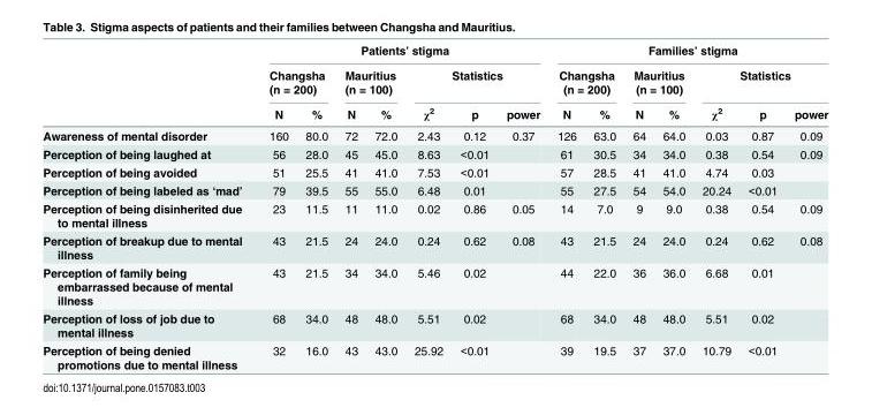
<table><thead><tr><td rowspan="3"></td><td colspan="7">Patients’ stigma</td><td colspan="7">Families’ stigma</td></tr><tr><td colspan="2">Changsha (n = 200)</td><td colspan="2">Mauritius (n = 100)</td><td colspan="3">Statistics</td><td colspan="2">Changsha (n = 200)</td><td colspan="2">Mauritius (n = 100)</td><td colspan="3">Statistics</td></tr><tr><td>N</td><td>%</td><td>N</td><td>%</td><td>χ<sup>2</sup></td><td>p</td><td>power</td><td>N</td><td>%</td><td>N</td><td>%</td><td>χ<sup>2</sup></td><td>p</td><td>power</td></tr></thead><tbody><tr><td>Awareness of mental disorder</td><td>160</td><td>80.0</td><td>72</td><td>72.0</td><td>2.43</td><td>0.12</td><td>0.37</td><td>126</td><td>63.0</td><td>64</td><td>64.0</td><td>0.03</td><td>0.87</td><td>0.09</td></tr><tr><td>Perception of being laughed at</td><td>56</td><td>28.0</td><td>45</td><td>45.0</td><td>8.63</td><td>&lt;0.01</td><td></td><td>61</td><td>30.5</td><td>34</td><td>34.0</td><td>0.38</td><td>0.54</td><td>0.09</td></tr><tr><td>Perception of being avoided</td><td>51</td><td>25.5</td><td>41</td><td>41.0</td><td>7.53</td><td>&lt;0.01</td><td></td><td>57</td><td>28.5</td><td>41</td><td>41.0</td><td>4.74</td><td>0.03</td><td></td></tr><tr><td>Perception of being labeled as ‘mad’</td><td>79</td><td>39.5</td><td>55</td><td>55.0</td><td>6.48</td><td>0.01</td><td></td><td>55</td><td>27.5</td><td>54</td><td>54.0</td><td>20.24</td><td>&lt;0.01</td><td></td></tr><tr><td>Perception of being disinherited due to mental illness</td><td>23</td><td>11.5</td><td>11</td><td>11.0</td><td>0.02</td><td>0.86</td><td>0.05</td><td>14</td><td>7.0</td><td>9</td><td>9.0</td><td>0.38</td><td>0.54</td><td>0.09</td></tr><tr><td>Perception of breakup due to mental illness</td><td>43</td><td>21.5</td><td>24</td><td>24.0</td><td>0.24</td><td>0.62</td><td>0.08</td><td>43</td><td>21.5</td><td>24</td><td>24.0</td><td>0.24</td><td>0.62</td><td>0.08</td></tr><tr><td>Perception of family being embarrassed because of mental illness</td><td>43</td><td>21.5</td><td>34</td><td>34.0</td><td>5.46</td><td>0.02</td><td></td><td>44</td><td>22.0</td><td>36</td><td>36.0</td><td>6.68</td><td>0.01</td><td></td></tr><tr><td>Perception of loss of job due to mental illness</td><td>68</td><td>34.0</td><td>48</td><td>48.0</td><td>5.51</td><td>0.02</td><td></td><td>68</td><td>34.0</td><td>48</td><td>48.0</td><td>5.51</td><td>0.02</td><td></td></tr><tr><td>Perception of being denied promotions due to mental illness</td><td>32</td><td>16.0</td><td>43</td><td>43.0</td><td>25.92</td><td>&lt;0.01</td><td></td><td>39</td><td>19.5</td><td>37</td><td>37.0</td><td>10.79</td><td>&lt;0.01</td><td></td></tr></tbody></table>